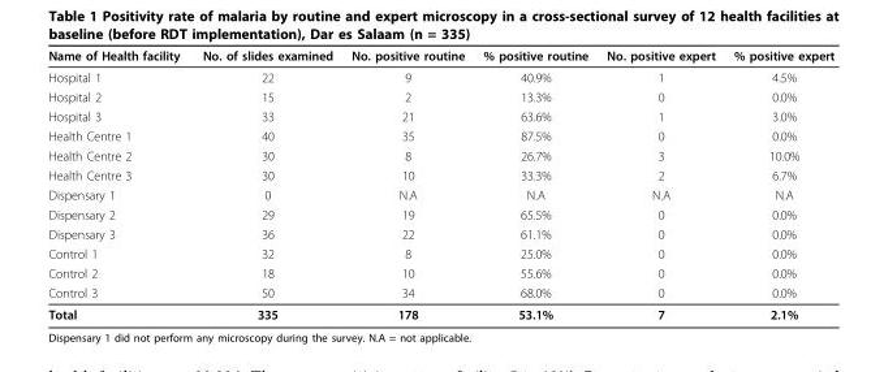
<table><thead><tr><td>Name of Health facility</td><td>No. of slides examined</td><td>No. positive routine</td><td>% positive routine</td><td>No. positive expert</td><td>% positive expert</td></tr></thead><tbody><tr><td>Hospital 1</td><td>22</td><td>9</td><td>40.9%</td><td>1</td><td>4.5%</td></tr><tr><td>Hospital 2</td><td>15</td><td>2</td><td>13.3%</td><td>0</td><td>0.0%</td></tr><tr><td>Hospital 3</td><td>33</td><td>21</td><td>63.6%</td><td>1</td><td>3.0%</td></tr><tr><td>Health Centre 1</td><td>40</td><td>35</td><td>87.5%</td><td>0</td><td>0.0%</td></tr><tr><td>Health Centre 2</td><td>30</td><td>8</td><td>26.7%</td><td>3</td><td>10.0%</td></tr><tr><td>Health Centre 3</td><td>30</td><td>10</td><td>33.3%</td><td>2</td><td>6.7%</td></tr><tr><td>Dispensary 1</td><td>0</td><td>N.A</td><td>N.A</td><td>N.A</td><td>N.A</td></tr><tr><td>Dispensary 2</td><td>29</td><td>19</td><td>65.5%</td><td>0</td><td>0.0%</td></tr><tr><td>Dispensary 3</td><td>36</td><td>22</td><td>61.1%</td><td>0</td><td>0.0%</td></tr><tr><td>Control 1</td><td>32</td><td>8</td><td>25.0%</td><td>0</td><td>0.0%</td></tr><tr><td>Control 2</td><td>18</td><td>10</td><td>55.6%</td><td>0</td><td>0.0%</td></tr><tr><td>Control 3</td><td>50</td><td>34</td><td>68.0%</td><td>0</td><td>0.0%</td></tr><tr><td>Total</td><td>335</td><td>178</td><td>53.1%</td><td>7</td><td>2.1%</td></tr></tbody></table>